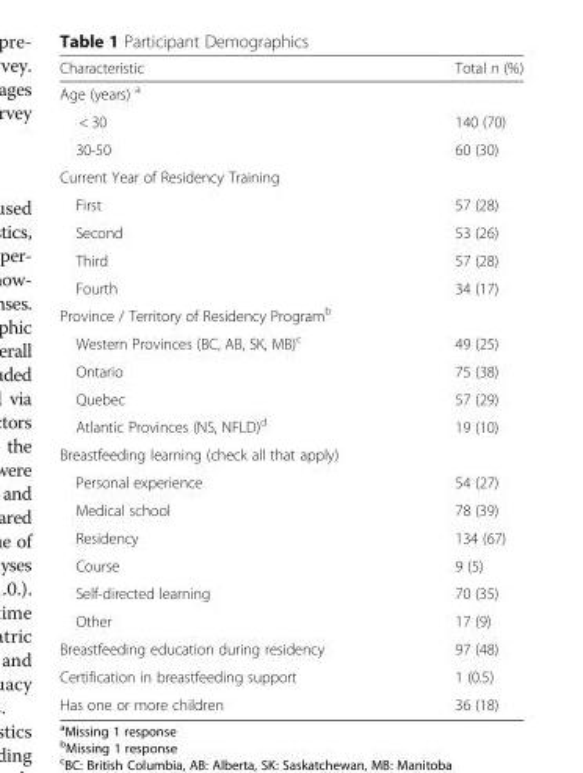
<table><thead><tr><td>Characteristic</td><td>Total n (%)</td></tr></thead><tbody><tr><td colspan="2">Age (years) <sup>a</sup></td></tr><tr><td>&lt; 30</td><td>140 (70)</td></tr><tr><td>30-50</td><td>60 (30)</td></tr><tr><td colspan="2">Current Year of Residency Training</td></tr><tr><td>First</td><td>57 (28)</td></tr><tr><td>Second</td><td>53 (26)</td></tr><tr><td>Third</td><td>57 (28)</td></tr><tr><td>Fourth</td><td>34 (17)</td></tr><tr><td colspan="2">Province / Territory of Residency Program<sup>b</sup></td></tr><tr><td>Western Provinces (BC, AB, SK, MB)<sup>c</sup></td><td>49 (25)</td></tr><tr><td>Ontario</td><td>75 (38)</td></tr><tr><td>Quebec</td><td>57 (29)</td></tr><tr><td>Atlantic Provinces (NS, NFLD)<sup>d</sup></td><td>19 (10)</td></tr><tr><td colspan="2">Breastfeeding learning (check all that apply)</td></tr><tr><td>Personal experience</td><td>54 (27)</td></tr><tr><td>Medical school</td><td>78 (39)</td></tr><tr><td>Residency</td><td>134 (67)</td></tr><tr><td>Course</td><td>9 (5)</td></tr><tr><td>Self-directed learning</td><td>70 (35)</td></tr><tr><td>Other</td><td>17 (9)</td></tr><tr><td>Breastfeeding education during residency</td><td>97 (48)</td></tr><tr><td>Certification in breastfeeding support</td><td>1 (0.5)</td></tr><tr><td>Has one or more children</td><td>36 (18)</td></tr></tbody></table>